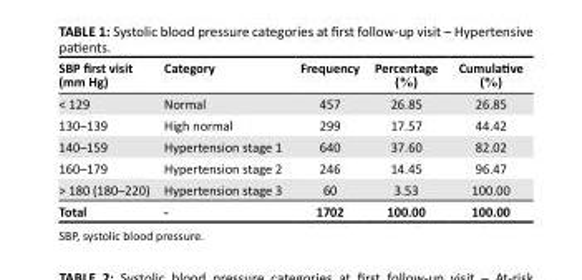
<table><thead><tr><td>SBP first visit (mm Hg)</td><td>Category</td><td>Frequency</td><td>Percentage (%)</td><td>Cumulative (%)</td></tr></thead><tbody><tr><td>&lt; 129</td><td>Normal</td><td>457</td><td>26.85</td><td>26.85</td></tr><tr><td>130–139</td><td>High normal</td><td>299</td><td>17.57</td><td>44.42</td></tr><tr><td>140–159</td><td>Hypertension stage 1</td><td>640</td><td>37.60</td><td>82.02</td></tr><tr><td>160–179</td><td>Hypertension stage 2</td><td>246</td><td>14.45</td><td>96.47</td></tr><tr><td>&gt; 180 (180–220)</td><td>Hypertension stage 3</td><td>60</td><td>3.53</td><td>100.00</td></tr><tr><td>Total</td><td>-</td><td>1702</td><td>100.00</td><td>100.00</td></tr></tbody></table>